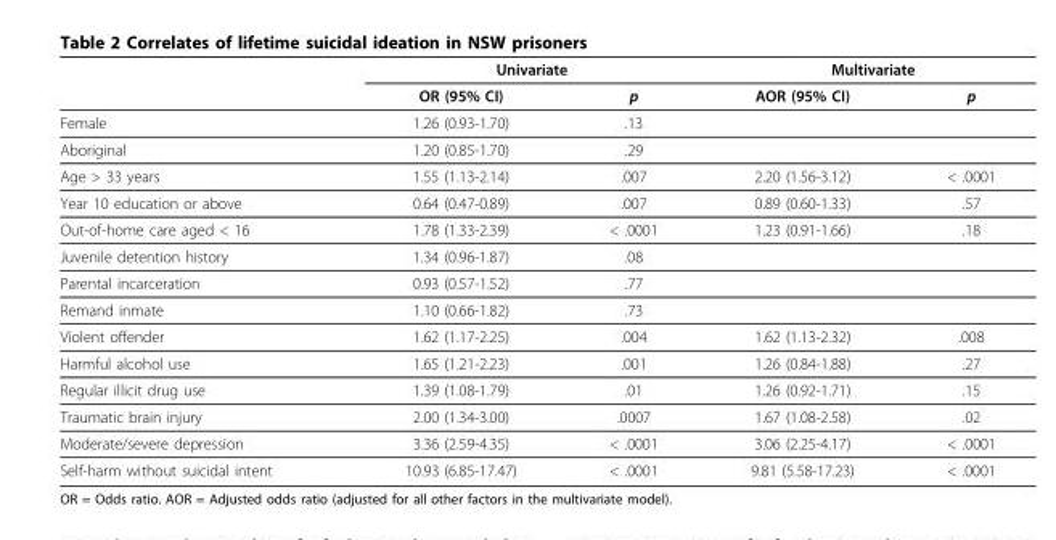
<table><thead><tr><td rowspan="2"></td><td colspan="2">Univariate</td><td colspan="2">Multivariate</td></tr><tr><td>OR (95% CI)</td><td>p</td><td>AOR (95% CI)</td><td>p</td></tr></thead><tbody><tr><td>Female</td><td>1.26 (0.93-1.70)</td><td>.13</td><td></td><td></td></tr><tr><td>Aboriginal</td><td>1.20 (0.85-1.70)</td><td>.29</td><td></td><td></td></tr><tr><td>Age &gt; 33 years</td><td>1.55 (1.13-2.14)</td><td>.007</td><td>2.20 (1.56-3.12)</td><td>&lt; .0001</td></tr><tr><td>Year 10 education or above</td><td>0.64 (0.47-0.89)</td><td>.007</td><td>0.89 (0.60-1.33)</td><td>.57</td></tr><tr><td>Out-of-home care aged &lt; 16</td><td>1.78 (1.33-2.39)</td><td>&lt; .0001</td><td>1.23 (0.91-1.66)</td><td>.18</td></tr><tr><td>Juvenile detention history</td><td>1.34 (0.96-1.87)</td><td>.08</td><td></td><td></td></tr><tr><td>Parental incarceration</td><td>0.93 (0.57-1.52)</td><td>.77</td><td></td><td></td></tr><tr><td>Remand inmate</td><td>1.10 (0.66-1.82)</td><td>.73</td><td></td><td></td></tr><tr><td>Violent offender</td><td>1.62 (1.17-2.25)</td><td>.004</td><td>1.62 (1.13-2.32)</td><td>.008</td></tr><tr><td>Harmful alcohol use</td><td>1.65 (1.21-2.23)</td><td>.001</td><td>1.26 (0.84-1.88)</td><td>.27</td></tr><tr><td>Regular illicit drug use</td><td>1.39 (1.08-1.79)</td><td>.01</td><td>1.26 (0.92-1.71)</td><td>.15</td></tr><tr><td>Traumatic brain injury</td><td>2.00 (1.34-3.00)</td><td>.0007</td><td>1.67 (1.08-2.58)</td><td>.02</td></tr><tr><td>Moderate/severe depression</td><td>3.36 (2.59-4.35)</td><td>&lt; .0001</td><td>3.06 (2.25-4.17)</td><td>&lt; .0001</td></tr><tr><td>Self-harm without suicidal intent</td><td>10.93 (6.85-17.47)</td><td>&lt; .0001</td><td>9.81 (5.58-17.23)</td><td>&lt; .0001</td></tr></tbody></table>